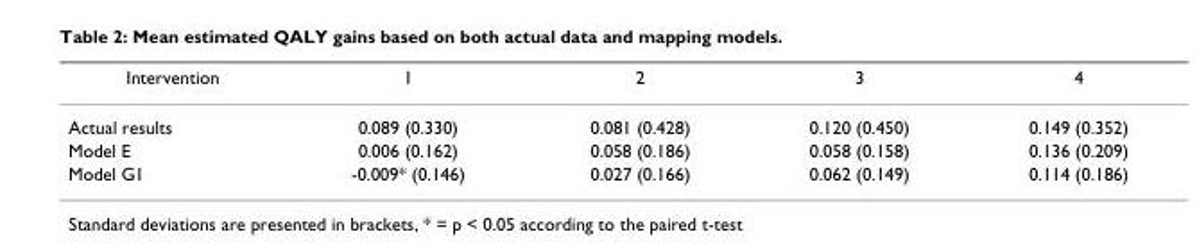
<table><thead><tr><td>Intervention</td><td>1</td><td>2</td><td>3</td><td>4</td></tr></thead><tbody><tr><td>Actual results</td><td>0.089 (0.330)</td><td>0.081 (0.428)</td><td>0.120 (0.450)</td><td>0.149 (0.352)</td></tr><tr><td>Model E</td><td>0.006 (0.162)</td><td>0.058 (0.186)</td><td>0.058 (0.158)</td><td>0.136 (0.209)</td></tr><tr><td>Model G1</td><td>-0.009* (0.146)</td><td>0.027 (0.166)</td><td>0.062 (0.149)</td><td>0.114 (0.186)</td></tr></tbody></table>